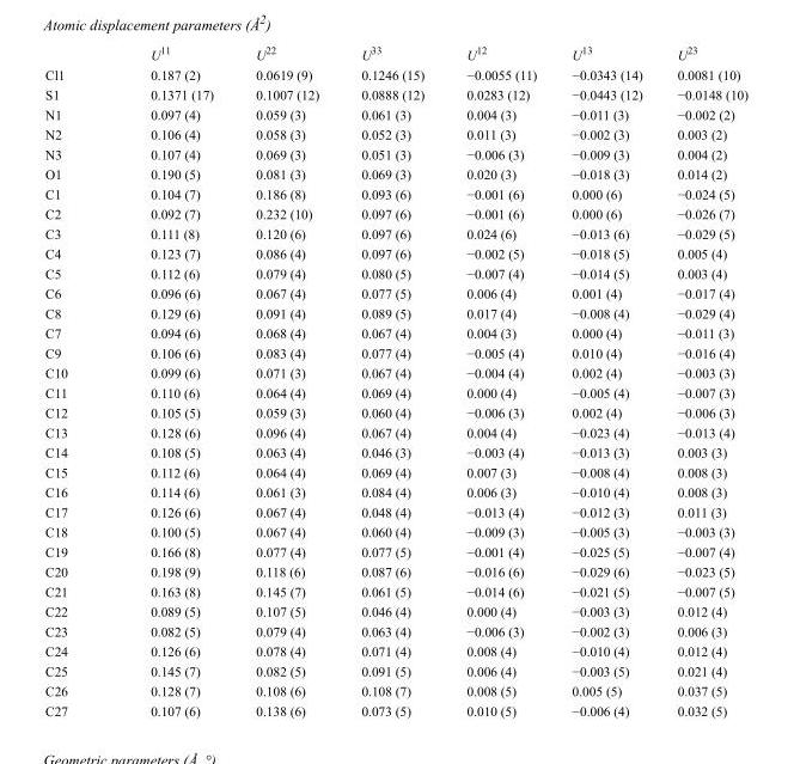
<table><thead><tr><td></td><td>U<sup>11</sup></td><td>U<sup>22</sup></td><td>U<sup>33</sup></td><td>U<sup>12</sup></td><td>U<sup>13</sup></td><td>U<sup>23</sup></td></tr></thead><tbody><tr><td>Cl1</td><td>0.187 (2)</td><td>0.0619 (9)</td><td>0.1246 (15)</td><td>−0.0055 (11)</td><td>−0.0343 (14)</td><td>0.0081 (10)</td></tr><tr><td>S1</td><td>0.1371 (17)</td><td>0.1007 (12)</td><td>0.0888 (12)</td><td>0.0283 (12)</td><td>−0.0443 (12)</td><td>−0.0148 (10)</td></tr><tr><td>N1</td><td>0.097 (4)</td><td>0.059 (3)</td><td>0.061 (3)</td><td>0.004 (3)</td><td>−0.011 (3)</td><td>−0.002 (2)</td></tr><tr><td>N2</td><td>0.106 (4)</td><td>0.058 (3)</td><td>0.052 (3)</td><td>0.011 (3)</td><td>−0.002 (3)</td><td>0.003 (2)</td></tr><tr><td>N3</td><td>0.107 (4)</td><td>0.069 (3)</td><td>0.051 (3)</td><td>−0.006 (3)</td><td>−0.009 (3)</td><td>0.004 (2)</td></tr><tr><td>O1</td><td>0.190 (5)</td><td>0.081 (3)</td><td>0.069 (3)</td><td>0.020 (3)</td><td>−0.018 (3)</td><td>0.014 (2)</td></tr><tr><td>C1</td><td>0.104 (7)</td><td>0.186 (8)</td><td>0.093 (6)</td><td>−0.001 (6)</td><td>0.000 (6)</td><td>−0.024 (5)</td></tr><tr><td>C2</td><td>0.092 (7)</td><td>0.232 (10)</td><td>0.097 (6)</td><td>−0.001 (6)</td><td>0.000 (6)</td><td>−0.026 (7)</td></tr><tr><td>C3</td><td>0.111 (8)</td><td>0.120 (6)</td><td>0.097 (6)</td><td>0.024 (6)</td><td>−0.013 (6)</td><td>−0.029 (5)</td></tr><tr><td>C4</td><td>0.123 (7)</td><td>0.086 (4)</td><td>0.097 (6)</td><td>−0.002 (5)</td><td>−0.018 (5)</td><td>0.005 (4)</td></tr><tr><td>C5</td><td>0.112 (6)</td><td>0.079 (4)</td><td>0.080 (5)</td><td>−0.007 (4)</td><td>−0.014 (5)</td><td>0.003 (4)</td></tr><tr><td>C6</td><td>0.096 (6)</td><td>0.067 (4)</td><td>0.077 (5)</td><td>0.006 (4)</td><td>0.001 (4)</td><td>−0.017 (4)</td></tr><tr><td>C8</td><td>0.129 (6)</td><td>0.091 (4)</td><td>0.089 (5)</td><td>0.017 (4)</td><td>−0.008 (4)</td><td>−0.029 (4)</td></tr><tr><td>C7</td><td>0.094 (6)</td><td>0.068 (4)</td><td>0.067 (4)</td><td>0.004 (3)</td><td>0.000 (4)</td><td>−0.011 (3)</td></tr><tr><td>C9</td><td>0.106 (6)</td><td>0.083 (4)</td><td>0.077 (4)</td><td>−0.005 (4)</td><td>0.010 (4)</td><td>−0.016 (4)</td></tr><tr><td>C10</td><td>0.099 (6)</td><td>0.071 (3)</td><td>0.067 (4)</td><td>−0.004 (4)</td><td>0.002 (4)</td><td>−0.003 (3)</td></tr><tr><td>C11</td><td>0.110 (6)</td><td>0.064 (4)</td><td>0.069 (4)</td><td>0.000 (4)</td><td>−0.005 (4)</td><td>−0.007 (3)</td></tr><tr><td>C12</td><td>0.105 (5)</td><td>0.059 (3)</td><td>0.060 (4)</td><td>−0.006 (3)</td><td>0.002 (4)</td><td>−0.006 (3)</td></tr><tr><td>C13</td><td>0.128 (6)</td><td>0.096 (4)</td><td>0.067 (4)</td><td>0.004 (4)</td><td>−0.023 (4)</td><td>−0.013 (4)</td></tr><tr><td>C14</td><td>0.108 (5)</td><td>0.063 (4)</td><td>0.046 (3)</td><td>−0.003 (4)</td><td>−0.013 (3)</td><td>0.003 (3)</td></tr><tr><td>C15</td><td>0.112 (6)</td><td>0.064 (4)</td><td>0.069 (4)</td><td>0.007 (3)</td><td>−0.008 (4)</td><td>0.008 (3)</td></tr><tr><td>C16</td><td>0.114 (6)</td><td>0.061 (3)</td><td>0.084 (4)</td><td>0.006 (3)</td><td>−0.010 (4)</td><td>0.008 (3)</td></tr><tr><td>C17</td><td>0.126 (6)</td><td>0.067 (4)</td><td>0.048 (4)</td><td>−0.013 (4)</td><td>−0.012 (3)</td><td>0.011 (3)</td></tr><tr><td>C18</td><td>0.100 (5)</td><td>0.067 (4)</td><td>0.060 (4)</td><td>−0.009 (3)</td><td>−0.005 (3)</td><td>−0.003 (3)</td></tr><tr><td>C19</td><td>0.166 (8)</td><td>0.077 (4)</td><td>0.077 (5)</td><td>−0.001 (4)</td><td>−0.025 (5)</td><td>−0.007 (4)</td></tr><tr><td>C20</td><td>0.198 (9)</td><td>0.118 (6)</td><td>0.087 (6)</td><td>−0.016 (6)</td><td>−0.029 (6)</td><td>−0.023 (5)</td></tr><tr><td>C21</td><td>0.163 (8)</td><td>0.145 (7)</td><td>0.061 (5)</td><td>−0.014 (6)</td><td>−0.021 (5)</td><td>−0.007 (5)</td></tr><tr><td>C22</td><td>0.089 (5)</td><td>0.107 (5)</td><td>0.046 (4)</td><td>0.000 (4)</td><td>−0.003 (3)</td><td>0.012 (4)</td></tr><tr><td>C23</td><td>0.082 (5)</td><td>0.079 (4)</td><td>0.063 (4)</td><td>−0.006 (3)</td><td>−0.002 (3)</td><td>0.006 (3)</td></tr><tr><td>C24</td><td>0.126 (6)</td><td>0.078 (4)</td><td>0.071 (4)</td><td>0.008 (4)</td><td>−0.010 (4)</td><td>0.012 (4)</td></tr><tr><td>C25</td><td>0.145 (7)</td><td>0.082 (5)</td><td>0.091 (5)</td><td>0.006 (4)</td><td>−0.003 (5)</td><td>0.021 (4)</td></tr><tr><td>C26</td><td>0.128 (7)</td><td>0.108 (6)</td><td>0.108 (7)</td><td>0.008 (5)</td><td>0.005 (5)</td><td>0.037 (5)</td></tr><tr><td>C27</td><td>0.107 (6)</td><td>0.138 (6)</td><td>0.073 (5)</td><td>0.010 (5)</td><td>−0.006 (4)</td><td>0.032 (5)</td></tr></tbody></table>